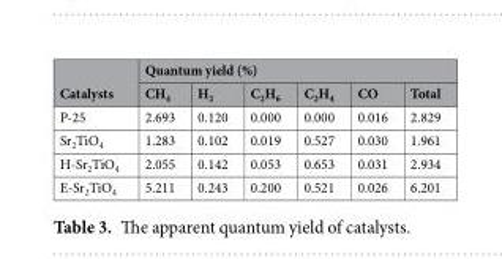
<table><thead><tr><td rowspan="2">Catalysts</td><td colspan="6">Quantum yield (%)</td></tr><tr><td>CH<sub>4</sub></td><td>H<sub>2</sub></td><td>C<sub>2</sub>H<sub>6</sub></td><td>C<sub>2</sub>H<sub>4</sub></td><td>CO</td><td>Total</td></tr></thead><tbody><tr><td>P-25</td><td>2.693</td><td>0.120</td><td>0.000</td><td>0.000</td><td>0.016</td><td>2.829</td></tr><tr><td>Sr<sub>2</sub>TiO<sub>4</sub></td><td>1.283</td><td>0.102</td><td>0.019</td><td>0.527</td><td>0.030</td><td>1.961</td></tr><tr><td>H-Sr<sub>2</sub>TiO<sub>4</sub></td><td>2.055</td><td>0.142</td><td>0.053</td><td>0.653</td><td>0.031</td><td>2.934</td></tr><tr><td>E-Sr<sub>2</sub>TiO<sub>4</sub></td><td>5.211</td><td>0.243</td><td>0.200</td><td>0.521</td><td>0.026</td><td>6.201</td></tr></tbody></table>